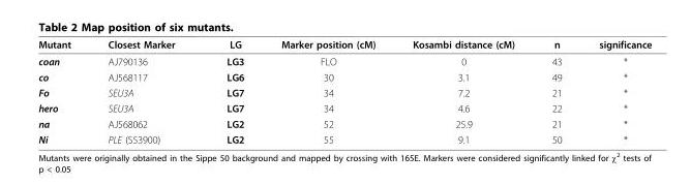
<table><thead><tr><td>Mutant</td><td>Closest Marker</td><td>LG</td><td>Marker position (cM)</td><td>Kosambi distance (cM)</td><td>n</td><td>significance</td></tr></thead><tbody><tr><td>coan</td><td>AJ790136</td><td>LG3</td><td>FLO</td><td>0</td><td>43</td><td>*</td></tr><tr><td>co</td><td>AJ568117</td><td>LG6</td><td>30</td><td>3.1</td><td>49</td><td>*</td></tr><tr><td>Fo</td><td>SEU3A</td><td>LG7</td><td>34</td><td>7.2</td><td>21</td><td>*</td></tr><tr><td>hero</td><td>SEU3A</td><td>LG7</td><td>34</td><td>4.6</td><td>22</td><td>*</td></tr><tr><td>na</td><td>AJ568062</td><td>LG2</td><td>52</td><td>25.9</td><td>21</td><td>*</td></tr><tr><td>Ni</td><td>PLE (S53900)</td><td>LG2</td><td>55</td><td>9.1</td><td>50</td><td>*</td></tr></tbody></table>